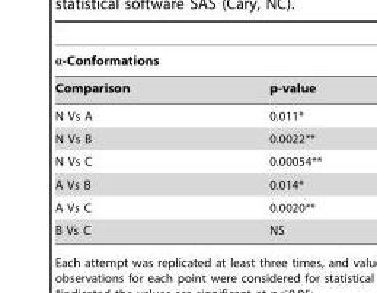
<table><thead><tr><td colspan="2">α-Conformations</td></tr><tr><td>Comparison</td><td>p-value</td></tr></thead><tbody><tr><td>N Vs A</td><td>0.011*</td></tr><tr><td>N Vs B</td><td>0.0022**</td></tr><tr><td>N Vs C</td><td>0.00054**</td></tr><tr><td>A Vs B</td><td>0.014*</td></tr><tr><td>A Vs C</td><td>0.0020**</td></tr><tr><td>B Vs C</td><td>NS</td></tr></tbody></table>